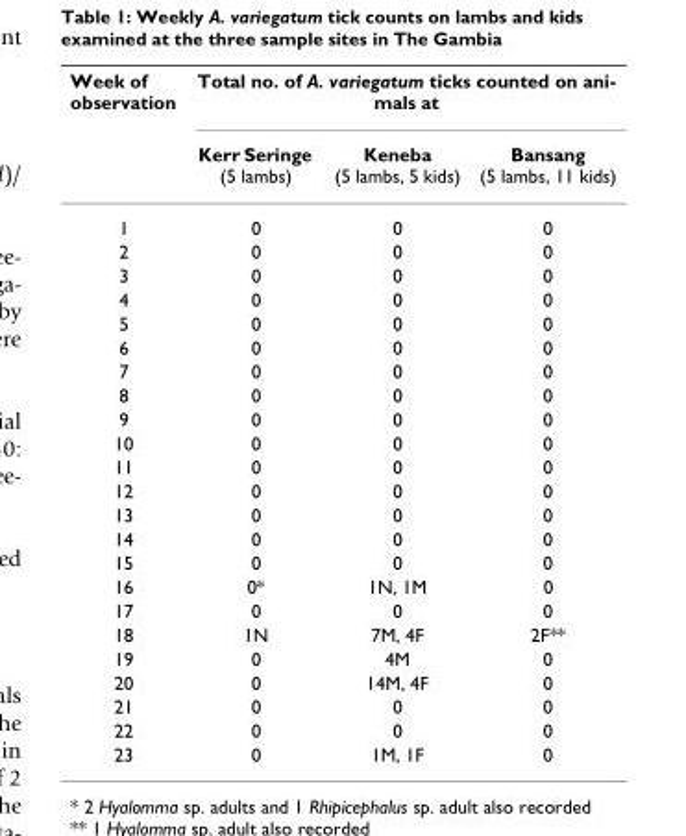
<table><thead><tr><td rowspan="2">Week of observation</td><td colspan="3">Total no. of A. variegatum ticks counted on ani- mals at</td></tr><tr><td>Kerr Seringe (5 lambs)</td><td>Keneba (5 lambs, 5 kids)</td><td>Bansang (5 lambs, 11 kids)</td></tr></thead><tbody><tr><td>1</td><td>0</td><td>0</td><td>0</td></tr><tr><td>2</td><td>0</td><td>0</td><td>0</td></tr><tr><td>3</td><td>0</td><td>0</td><td>0</td></tr><tr><td>4</td><td>0</td><td>0</td><td>0</td></tr><tr><td>5</td><td>0</td><td>0</td><td>0</td></tr><tr><td>6</td><td>0</td><td>0</td><td>0</td></tr><tr><td>7</td><td>0</td><td>0</td><td>0</td></tr><tr><td>8</td><td>0</td><td>0</td><td>0</td></tr><tr><td>9</td><td>0</td><td>0</td><td>0</td></tr><tr><td>10</td><td>0</td><td>0</td><td>0</td></tr><tr><td>11</td><td>0</td><td>0</td><td>0</td></tr><tr><td>12</td><td>0</td><td>0</td><td>0</td></tr><tr><td>13</td><td>0</td><td>0</td><td>0</td></tr><tr><td>14</td><td>0</td><td>0</td><td>0</td></tr><tr><td>15</td><td>0</td><td>0</td><td>0</td></tr><tr><td>16</td><td>0*</td><td>1N, 1M</td><td>0</td></tr><tr><td>17</td><td>0</td><td>0</td><td>0</td></tr><tr><td>18</td><td>1N</td><td>7M, 4F</td><td>2F**</td></tr><tr><td>19</td><td>0</td><td>4M</td><td>0</td></tr><tr><td>20</td><td>0</td><td>14M, 4F</td><td>0</td></tr><tr><td>21</td><td>0</td><td>0</td><td>0</td></tr><tr><td>22</td><td>0</td><td>0</td><td>0</td></tr><tr><td>23</td><td>0</td><td>1M, 1F</td><td>0</td></tr></tbody></table>